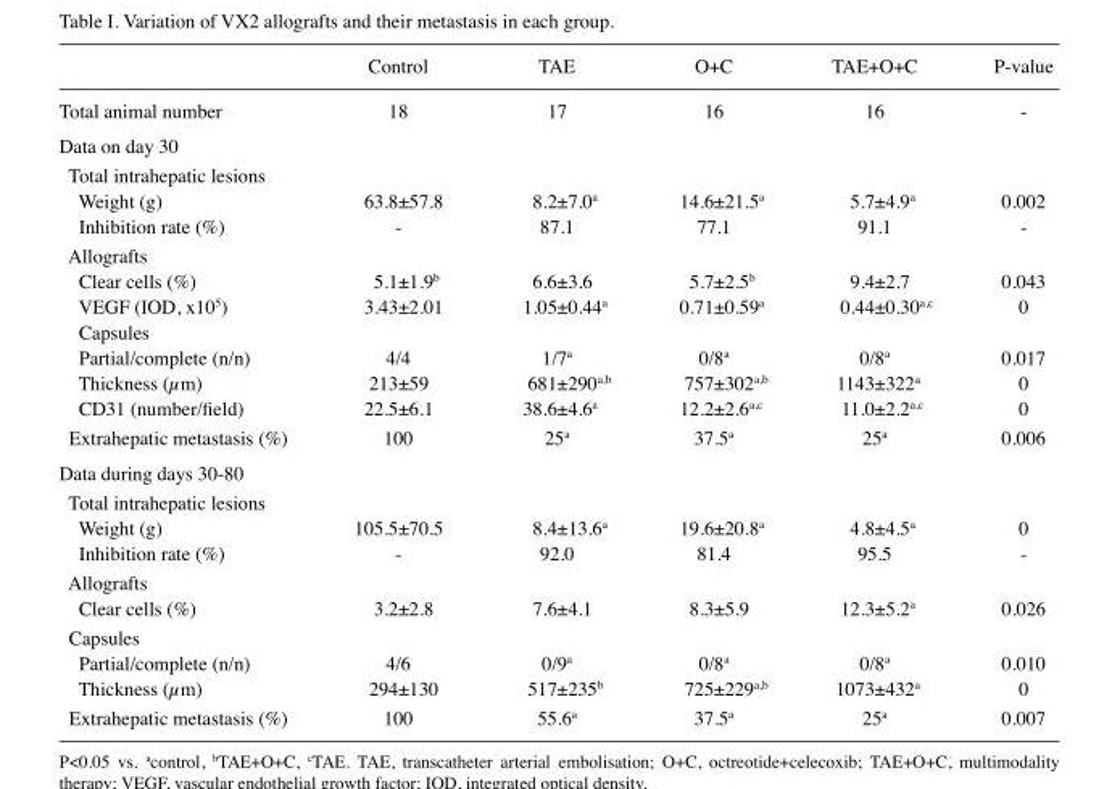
<table><thead><tr><td></td><td>Control</td><td>TAE</td><td>O+C</td><td>TAE+O+C</td><td>P-value</td></tr></thead><tbody><tr><td>Total animal number</td><td>18</td><td>17</td><td>16</td><td>16</td><td>-</td></tr><tr><td colspan="6">Data on day 30</td></tr><tr><td colspan="6">Total intrahepatic lesions</td></tr><tr><td>Weight (g)</td><td>63.8±57.8</td><td>8.2±7.0<sup>a</sup></td><td>14.6±21.5<sup>a</sup></td><td>5.7±4.9<sup>a</sup></td><td>0.002</td></tr><tr><td>Inhibition rate (%)</td><td>‑</td><td>87.1</td><td>77.1</td><td>91.1</td><td>‑</td></tr><tr><td colspan="6">Allografts</td></tr><tr><td>Clear cells (%)</td><td>5.1±1.9<sup>b</sup></td><td>6.6±3.6</td><td>5.7±2.5<sup>b</sup></td><td>9.4±2.7</td><td>0.043</td></tr><tr><td>VEGF (IOD, x105)</td><td>3.43±2.01</td><td>1.05±0.44<sup>a</sup></td><td>0.71±0.59<sup>a</sup></td><td>0.44±0.30<sup>a,c</sup></td><td>0</td></tr><tr><td colspan="6">Capsules</td></tr><tr><td>Partial/complete (n/n)</td><td>4/4</td><td>1/7<sup>a</sup></td><td>0/8<sup>a</sup></td><td>0/8<sup>a</sup></td><td>0.017</td></tr><tr><td>Thickness (µm)</td><td>213±59</td><td>681±290<sup>a,b</sup></td><td>757±302<sup>a,b</sup></td><td>1143±322<sup>a</sup></td><td>0</td></tr><tr><td>CD31 (number/field)</td><td>22.5±6.1</td><td>38.6±4.6<sup>a</sup></td><td>12.2±2.6<sup>a,c</sup></td><td>11.0±2.2<sup>a,c</sup></td><td>0</td></tr><tr><td>Extrahepatic metastasis (%)</td><td>100</td><td>25<sup>a</sup></td><td>37.5<sup>a</sup></td><td>25<sup>a</sup></td><td>0.006</td></tr><tr><td colspan="6">Data during days 30-80</td></tr><tr><td colspan="6">Total intrahepatic lesions</td></tr><tr><td>Weight (g)</td><td>105.5±70.5</td><td>8.4±13.6<sup>a</sup></td><td>19.6±20.8<sup>a</sup></td><td>4.8±4.5<sup>a</sup></td><td>0</td></tr><tr><td>Inhibition rate (%)</td><td>‑</td><td>92.0</td><td>81.4</td><td>95.5</td><td>‑</td></tr><tr><td colspan="6">Allografts</td></tr><tr><td>Clear cells (%)</td><td>3.2±2.8</td><td>7.6±4.1</td><td>8.3±5.9</td><td>12.3±5.2<sup>a</sup></td><td>0.026</td></tr><tr><td colspan="6">Capsules</td></tr><tr><td>Partial/complete (n/n)</td><td>4/6</td><td>0/9<sup>a</sup></td><td>0/8<sup>a</sup></td><td>0/8<sup>a</sup></td><td>0.010</td></tr><tr><td>Thickness (µm)</td><td>294±130</td><td>517±235<sup>b</sup></td><td>725±229<sup>a,b</sup></td><td>1073±432<sup>a</sup></td><td>0</td></tr><tr><td>Extrahepatic metastasis (%)</td><td>100</td><td>55.6<sup>a</sup></td><td>37.5<sup>a</sup></td><td>25<sup>a</sup></td><td>0.007</td></tr></tbody></table>